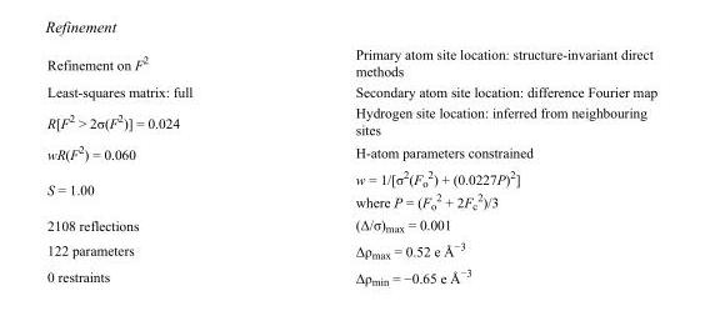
<table><tbody><tr><td>Refinement on F<sup>2</sup></td><td>Primary atom site location: structure-invariant direct methods</td></tr><tr><td>Least-squares matrix: full</td><td>Secondary atom site location: difference Fourier map</td></tr><tr><td>R[F<sup>2</sup> &gt; 2σ(F<sup>2</sup>)] = 0.024</td><td>Hydrogen site location: inferred from neighbouring sites</td></tr><tr><td>wR(F<sup>2</sup>) = 0.060</td><td>H-atom parameters constrained</td></tr><tr><td>S = 1.00</td><td>w = 1/[σ<sup>2</sup>(F<sub>o</sub> <sup>2</sup>) + (0.0227P)<sup>2</sup>] where P = (F<sub>o</sub> <sup>2</sup> + 2F<sub>c</sub> <sup>2</sup>)/3</td></tr><tr><td>2108 reflections</td><td>(Δ/σ)<sub>max</sub> = 0.001</td></tr><tr><td>122 parameters</td><td>Δρ<sub>max</sub> = 0.52 e Å<sup>−3</sup></td></tr><tr><td>0 restraints</td><td>Δρ<sub>min</sub> = −0.65 e Å<sup>−3</sup></td></tr></tbody></table>